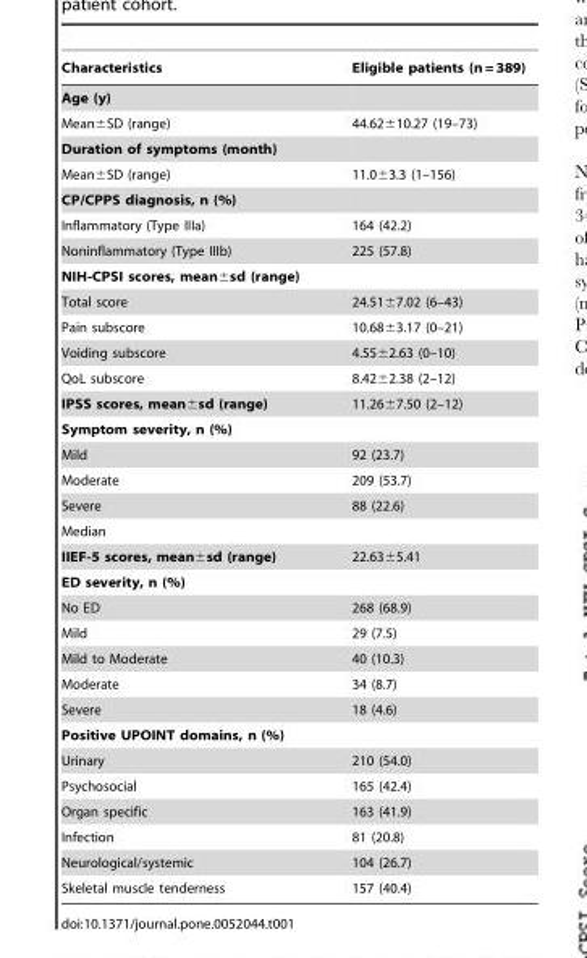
<table><thead><tr><td>Characteristics</td><td>Eligible patients (n = 389)</td></tr></thead><tbody><tr><td colspan="2">Age (y)</td></tr><tr><td>Mean±SD (range)</td><td>44.62±10.27 (19–73)</td></tr><tr><td colspan="2">Duration of symptoms (month)</td></tr><tr><td>Mean±SD (range)</td><td>11.0±3.3 (1–156)</td></tr><tr><td colspan="2">CP/CPPS diagnosis, n (%)</td></tr><tr><td>Inflammatory (Type IIIa)</td><td>164 (42.2)</td></tr><tr><td>Noninflammatory (Type IIIb)</td><td>225 (57.8)</td></tr><tr><td colspan="2">NIH-CPSI scores, mean±sd (range)</td></tr><tr><td>Total score</td><td>24.51±7.02 (6–43)</td></tr><tr><td>Pain subscore</td><td>10.68±3.17 (0–21)</td></tr><tr><td>Voiding subscore</td><td>4.55±2.63 (0–10)</td></tr><tr><td>QoL subscore</td><td>8.42±2.38 (2–12)</td></tr><tr><td>IPSS scores, mean±sd (range)</td><td>11.26±7.50 (2–12)</td></tr><tr><td colspan="2">Symptom severity, n (%)</td></tr><tr><td>Mild</td><td>92 (23.7)</td></tr><tr><td>Moderate</td><td>209 (53.7)</td></tr><tr><td>Severe</td><td>88 (22.6)</td></tr><tr><td colspan="2">Median</td></tr><tr><td>IIEF-5 scores, mean±sd (range)</td><td>22.63±5.41</td></tr><tr><td colspan="2">ED severity, n (%)</td></tr><tr><td>No ED</td><td>268 (68.9)</td></tr><tr><td>Mild</td><td>29 (7.5)</td></tr><tr><td>Mild to Moderate</td><td>40 (10.3)</td></tr><tr><td>Moderate</td><td>34 (8.7)</td></tr><tr><td>Severe</td><td>18 (4.6)</td></tr><tr><td colspan="2">Positive UPOINT domains, n (%)</td></tr><tr><td>Urinary</td><td>210 (54.0)</td></tr><tr><td>Psychosocial</td><td>165 (42.4)</td></tr><tr><td>Organ specific</td><td>163 (41.9)</td></tr><tr><td>Infection</td><td>81 (20.8)</td></tr><tr><td>Neurological/systemic</td><td>104 (26.7)</td></tr><tr><td>Skeletal muscle tenderness</td><td>157 (40.4)</td></tr></tbody></table>